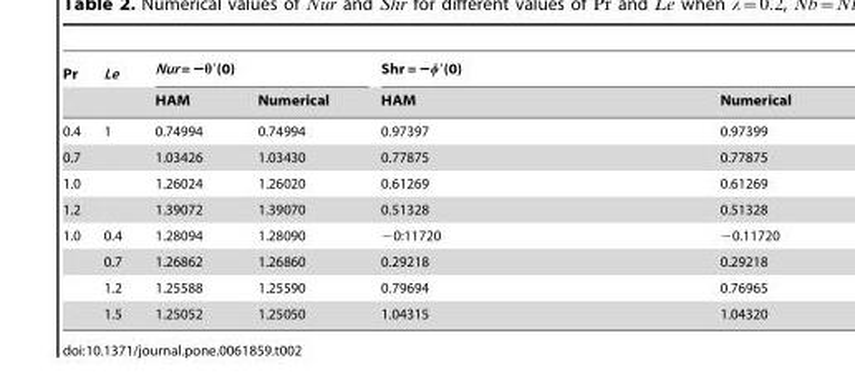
<table><thead><tr><td rowspan="2">Pr</td><td rowspan="2">Le</td><td colspan="2">Nur = −θ′(0)</td><td colspan="2">Shr = 2w9(0)</td></tr><tr><td>HAM</td><td>Numerical</td><td>HAM</td><td>Numerical</td></tr></thead><tbody><tr><td>0.4</td><td>1</td><td>0.74994</td><td>0.74994</td><td>0.97397</td><td>0.97399</td></tr><tr><td>0.7</td><td></td><td>1.03426</td><td>1.03430</td><td>0.77875</td><td>0.77875</td></tr><tr><td>1.0</td><td></td><td>1.26024</td><td>1.26020</td><td>0.61269</td><td>0.61269</td></tr><tr><td>1.2</td><td></td><td>1.39072</td><td>1.39070</td><td>0.51328</td><td>0.51328</td></tr><tr><td rowspan="4">1.0</td><td>0.4</td><td>1.28094</td><td>1.28090</td><td>−0:11720</td><td>−0.11720</td></tr><tr><td>0.7</td><td>1.26862</td><td>1.26860</td><td>0.29218</td><td>0.29218</td></tr><tr><td>1.2</td><td>1.25588</td><td>1.25590</td><td>0.79694</td><td>0.76965</td></tr><tr><td>1.5</td><td>1.25052</td><td>1.25050</td><td>1.04315</td><td>1.04320</td></tr></tbody></table>